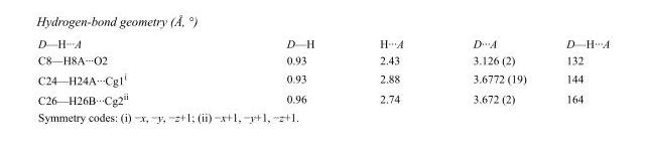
<table><tbody><tr><td>D—H···A</td><td>D—H</td><td>H···A</td><td>D···A</td><td>D—H···A</td></tr><tr><td>C8—H8A···O2</td><td>0.93</td><td>2.43</td><td>3.126 (2)</td><td>132</td></tr><tr><td>C24—H24A···Cg1<sup>i</sup></td><td>0.93</td><td>2.88</td><td>3.6772 (19)</td><td>144</td></tr><tr><td>C26—H26B···Cg2<sup>ii</sup></td><td>0.96</td><td>2.74</td><td>3.672 (2)</td><td>164</td></tr></tbody></table>